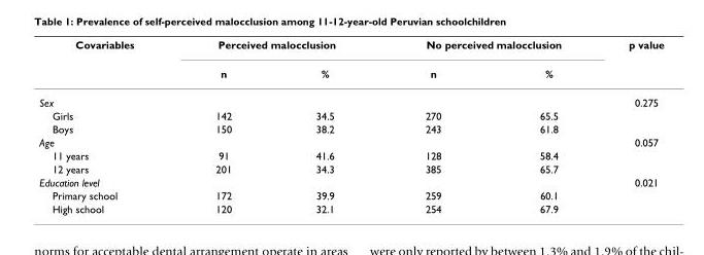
<table><thead><tr><td rowspan="2">Covariables</td><td colspan="2">Perceived malocclusion</td><td colspan="2">No perceived malocclusion</td><td rowspan="2">p value</td></tr><tr><td>n</td><td>%</td><td>n</td><td>%</td></tr></thead><tbody><tr><td>Sex</td><td></td><td></td><td></td><td></td><td>0.275</td></tr><tr><td>Girls</td><td>142</td><td>34.5</td><td>270</td><td>65.5</td><td></td></tr><tr><td>Boys</td><td>150</td><td>38.2</td><td>243</td><td>61.8</td><td></td></tr><tr><td>Age</td><td></td><td></td><td></td><td></td><td>0.057</td></tr><tr><td>11 years</td><td>91</td><td>41.6</td><td>128</td><td>58.4</td><td></td></tr><tr><td>12 years</td><td>201</td><td>34.3</td><td>385</td><td>65.7</td><td></td></tr><tr><td>Education level</td><td></td><td></td><td></td><td></td><td>0.021</td></tr><tr><td>Primary school</td><td>172</td><td>39.9</td><td>259</td><td>60.1</td><td></td></tr><tr><td>High school</td><td>120</td><td>32.1</td><td>254</td><td>67.9</td><td></td></tr></tbody></table>